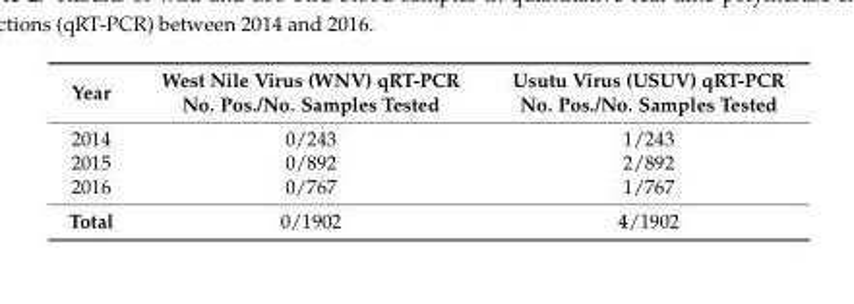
<table><thead><tr><td>Year</td><td>West Nile Virus (WNV) qRT-PCR No. Pos./No. Samples Tested</td><td>Usutu Virus (USUV) qRT-PCR No. Pos./No. Samples Tested</td></tr></thead><tbody><tr><td>2014</td><td>0/243</td><td>1/243</td></tr><tr><td>2015</td><td>0/892</td><td>2/892</td></tr><tr><td>2016</td><td>0/767</td><td>1/767</td></tr><tr><td>Total</td><td>0/1902</td><td>4/1902</td></tr></tbody></table>